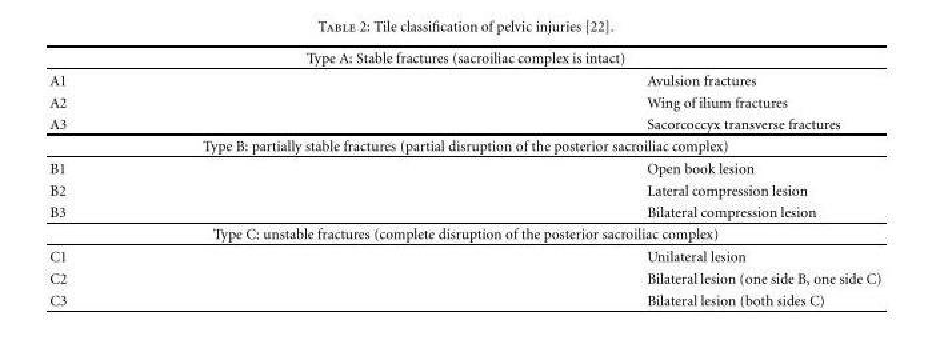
<table><thead><tr><td colspan="2">Type A: Stable fractures (sacroiliac complex is intact)</td></tr><tr><td>A1</td><td>Avulsion fractures</td></tr></thead><tbody><tr><td>A2</td><td>Wing of ilium fractures</td></tr><tr><td>A3</td><td>Sacorcoccyx transverse fractures</td></tr><tr><td colspan="2">Type B: partially stable fractures (partial disruption of the posterior sacroiliac complex)</td></tr><tr><td>B1</td><td>Open book lesion</td></tr><tr><td>B2</td><td>Lateral compression lesion</td></tr><tr><td>B3</td><td>Bilateral compression lesion</td></tr><tr><td colspan="2">Type C: unstable fractures (complete disruption of the posterior sacroiliac complex)</td></tr><tr><td>C1</td><td>Unilateral lesion</td></tr><tr><td>C2</td><td>Bilateral lesion (one side B, one side C)</td></tr><tr><td>C3</td><td>Bilateral lesion (both sides C)</td></tr></tbody></table>